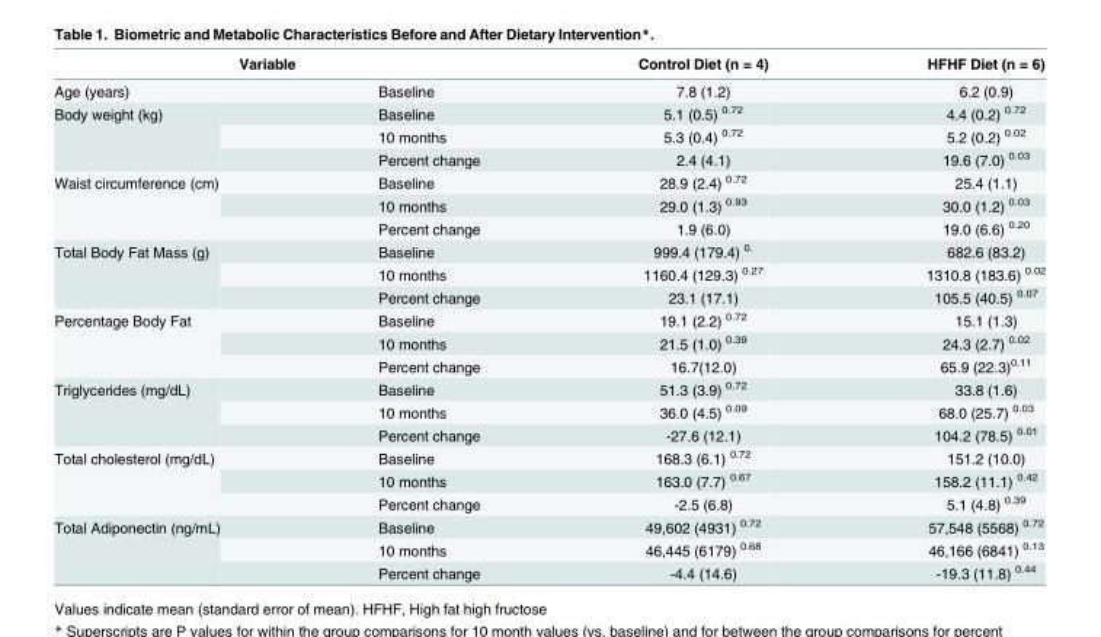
<table><thead><tr><td colspan="2">Variable</td><td rowspan="2">Control Diet (n = 4) 7.8 (1.2)</td><td rowspan="2">HFHF Diet (n = 6) 6.2 (0.9)</td></tr><tr><td>Age (years)</td><td>Baseline</td></tr></thead><tbody><tr><td rowspan="3">Body weight (kg)</td><td>Baseline</td><td>5.1 (0.5) <sup>0.72</sup></td><td>4.4 (0.2) <sup>0.72</sup></td></tr><tr><td>10 months</td><td>5.3 (0.4) <sup>0.72</sup></td><td>5.2 (0.2) <sup>0.02</sup></td></tr><tr><td>Percent change</td><td>2.4 (4.1)</td><td>19.6 (7.0) <sup>0.03</sup></td></tr><tr><td rowspan="3">Waist circumference (cm)</td><td>Baseline</td><td>28.9 (2.4) <sup>0.72</sup></td><td>25.4 (1.1)</td></tr><tr><td>10 months</td><td>29.0 (1.3) <sup>0.93</sup></td><td>30.0 (1.2) <sup>0.03</sup></td></tr><tr><td>Percent change</td><td>1.9 (6.0)</td><td>19.0 (6.6) <sup>0.20</sup></td></tr><tr><td rowspan="3">Total Body Fat Mass (g)</td><td>Baseline</td><td>999.4 (179.4) <sup>0.</sup></td><td>682.6 (83.2)</td></tr><tr><td>10 months</td><td>1160.4 (129.3) <sup>0.27</sup></td><td>1310.8 (183.6) <sup>0.02</sup></td></tr><tr><td>Percent change</td><td>23.1 (17.1)</td><td>105.5 (40.5) <sup>0.07</sup></td></tr><tr><td rowspan="3">Percentage Body Fat</td><td>Baseline</td><td>19.1 (2.2) <sup>0.72</sup></td><td>15.1 (1.3)</td></tr><tr><td>10 months</td><td>21.5 (1.0) <sup>0.39</sup></td><td>24.3 (2.7) <sup>0.02</sup></td></tr><tr><td>Percent change</td><td>16.7(12.0)</td><td>65.9 (22.3)<sup>0.11</sup></td></tr><tr><td rowspan="3">Triglycerides (mg/dL)</td><td>Baseline</td><td>51.3 (3.9) <sup>0.72</sup></td><td>33.8 (1.6)</td></tr><tr><td>10 months</td><td>36.0 (4.5) <sup>0.09</sup></td><td>68.0 (25.7) <sup>0.03</sup></td></tr><tr><td>Percent change</td><td>-27.6 (12.1)</td><td>104.2 (78.5) <sup>0.01</sup></td></tr><tr><td rowspan="3">Total cholesterol (mg/dL)</td><td>Baseline</td><td>168.3 (6.1) <sup>0.72</sup></td><td>151.2 (10.0)</td></tr><tr><td>10 months</td><td>163.0 (7.7) <sup>0.67</sup></td><td>158.2 (11.1) <sup>0.42</sup></td></tr><tr><td>Percent change</td><td>-2.5 (6.8)</td><td>5.1 (4.8) <sup>0.39</sup></td></tr><tr><td rowspan="3">Total Adiponectin (ng/mL)</td><td>Baseline</td><td>49,602 (4931) <sup>0.72</sup></td><td>57,548 (5568) <sup>0.72</sup></td></tr><tr><td>10 months</td><td>46,445 (6179) <sup>0.68</sup></td><td>46,166 (6841) <sup>0.13</sup></td></tr><tr><td>Percent change</td><td>-4.4 (14.6)</td><td>-19.3 (11.8) <sup>0.44</sup></td></tr></tbody></table>